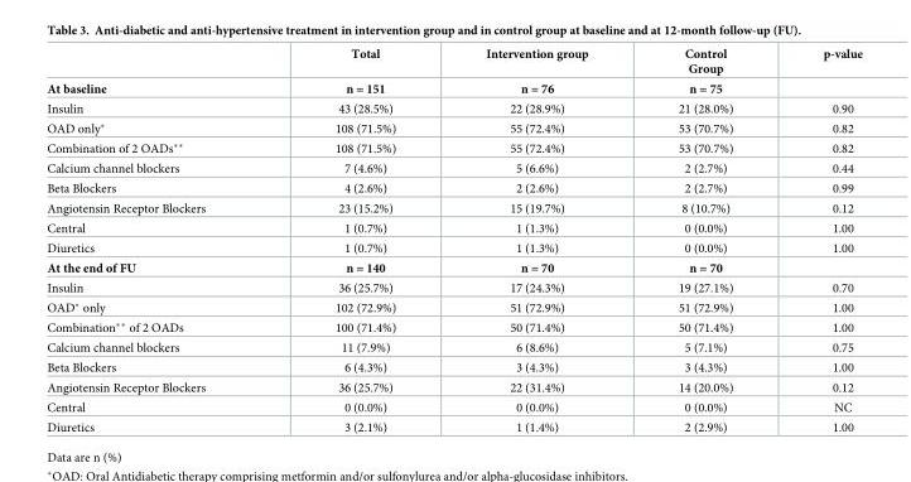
<table><thead><tr><td></td><td>Total</td><td>Intervention group</td><td>Control Group</td><td>p-value</td></tr></thead><tbody><tr><td>At baseline</td><td>n = 151</td><td>n = 76</td><td>n = 75</td><td></td></tr><tr><td>Insulin</td><td>43 (28.5%)</td><td>22 (28.9%)</td><td>21 (28.0%)</td><td>0.90</td></tr><tr><td>OAD only*</td><td>108 (71.5%)</td><td>55 (72.4%)</td><td>53 (70.7%)</td><td>0.82</td></tr><tr><td>Combination of 2 OADs**</td><td>108 (71.5%)</td><td>55 (72.4%)</td><td>53 (70.7%)</td><td>0.82</td></tr><tr><td>Calcium channel blockers</td><td>7 (4.6%)</td><td>5 (6.6%)</td><td>2 (2.7%)</td><td>0.44</td></tr><tr><td>Beta Blockers</td><td>4 (2.6%)</td><td>2 (2.6%)</td><td>2 (2.7%)</td><td>0.99</td></tr><tr><td>Angiotensin Receptor Blockers</td><td>23 (15.2%)</td><td>15 (19.7%)</td><td>8 (10.7%)</td><td>0.12</td></tr><tr><td>Central</td><td>1 (0.7%)</td><td>1 (1.3%)</td><td>0 (0.0%)</td><td>1.00</td></tr><tr><td>Diuretics</td><td>1 (0.7%)</td><td>1 (1.3%)</td><td>0 (0.0%)</td><td>1.00</td></tr><tr><td>At the end of FU</td><td>n = 140</td><td>n = 70</td><td>n = 70</td><td></td></tr><tr><td>Insulin</td><td>36 (25.7%)</td><td>17 (24.3%)</td><td>19 (27.1%)</td><td>0.70</td></tr><tr><td>OAD* only</td><td>102 (72.9%)</td><td>51 (72.9%)</td><td>51 (72.9%)</td><td>1.00</td></tr><tr><td>Combination** of 2 OADs</td><td>100 (71.4%)</td><td>50 (71.4%)</td><td>50 (71.4%)</td><td>1.00</td></tr><tr><td>Calcium channel blockers</td><td>11 (7.9%)</td><td>6 (8.6%)</td><td>5 (7.1%)</td><td>0.75</td></tr><tr><td>Beta Blockers</td><td>6 (4.3%)</td><td>3 (4.3%)</td><td>3 (4.3%)</td><td>1.00</td></tr><tr><td>Angiotensin Receptor Blockers</td><td>36 (25.7%)</td><td>22 (31.4%)</td><td>14 (20.0%)</td><td>0.12</td></tr><tr><td>Central</td><td>0 (0.0%)</td><td>0 (0.0%)</td><td>0 (0.0%)</td><td>NC</td></tr><tr><td>Diuretics</td><td>3 (2.1%)</td><td>1 (1.4%)</td><td>2 (2.9%)</td><td>1.00</td></tr></tbody></table>